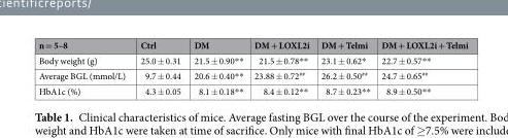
<table><thead><tr><td>n = 5–8</td><td>Ctrl</td><td>DM</td><td>DM + LOXL2i</td><td>DM + Telmi</td><td>DM + LOXL2i + Telmi</td></tr></thead><tbody><tr><td>Body weight (g)</td><td>25.0 ± 0.31</td><td>21.5 ± 0.90**</td><td>21.5 ± 0.78**</td><td>23.1 ± 0.62*</td><td>22.7 ± 0.57**</td></tr><tr><td>Average BGL (mmol/L)</td><td>9.7 ± 0.44</td><td>20.6 ± 0.40**</td><td>23.88 ± 0.72<sup>##</sup></td><td>26.2 ± 0.50<sup>##</sup></td><td>24.7 ± 0.65<sup>##</sup></td></tr><tr><td>HbA1c (%)</td><td>4.3 ± 0.05</td><td>8.1 ± 0.18**</td><td>8.4 ± 0.12**</td><td>8.7 ± 0.23**</td><td>8.9 ± 0.50**</td></tr></tbody></table>